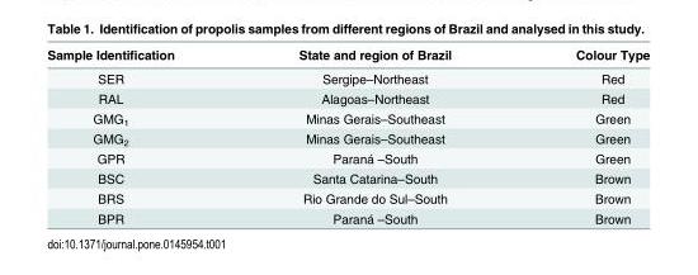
<table><thead><tr><td>Sample Identification</td><td>State and region of Brazil</td><td>Colour Type</td></tr></thead><tbody><tr><td>SER</td><td>Sergipe–Northeast</td><td>Red</td></tr><tr><td>RAL</td><td>Alagoas–Northeast</td><td>Red</td></tr><tr><td>GMG<sub>1</sub></td><td>Minas Gerais–Southeast</td><td>Green</td></tr><tr><td>GMG<sub>2</sub></td><td>Minas Gerais–Southeast</td><td>Green</td></tr><tr><td>GPR</td><td>Paraná –South</td><td>Green</td></tr><tr><td>BSC</td><td>Santa Catarina–South</td><td>Brown</td></tr><tr><td>BRS</td><td>Rio Grande do Sul–South</td><td>Brown</td></tr><tr><td>BPR</td><td>Paraná –South</td><td>Brown</td></tr></tbody></table>